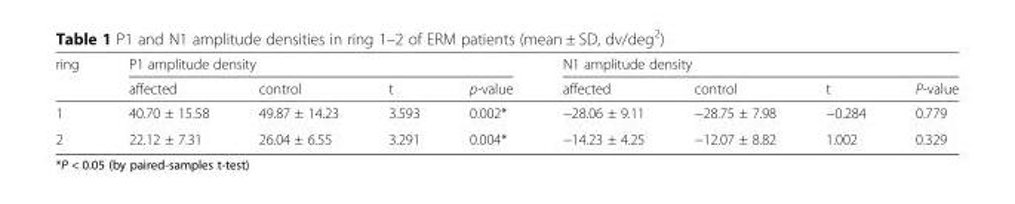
<table><thead><tr><td rowspan="2">ring</td><td colspan="4">P1 amplitude density</td><td colspan="4">N1 amplitude density</td></tr><tr><td>affected</td><td>control</td><td>t</td><td>p-value</td><td>affected</td><td>control</td><td>t</td><td>P-value</td></tr></thead><tbody><tr><td>1</td><td>40.70 ± 15.58</td><td>49.87 ± 14.23</td><td>3.593</td><td>0.002*</td><td>−28.06 ± 9.11</td><td>−28.75 ± 7.98</td><td>−0.284</td><td>0.779</td></tr><tr><td>2</td><td>22.12 ± 7.31</td><td>26.04 ± 6.55</td><td>3.291</td><td>0.004*</td><td>−14.23 ± 4.25</td><td>−12.07 ± 8.82</td><td>1.002</td><td>0.329</td></tr></tbody></table>